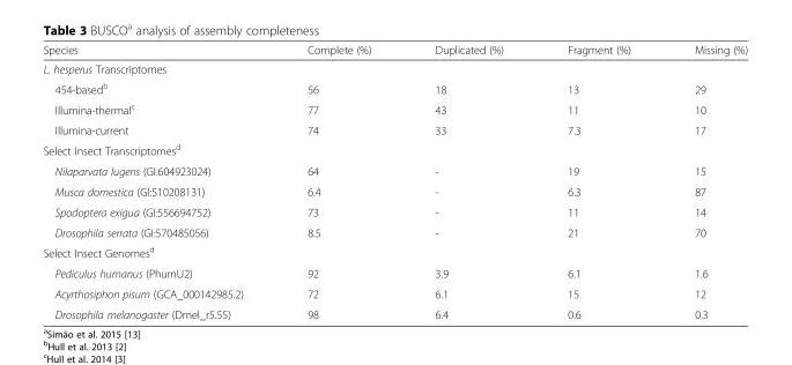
<table><thead><tr><td>Species</td><td>Complete (%)</td><td>Duplicated (%)</td><td>Fragment (%)</td><td>Missing (%)</td></tr></thead><tbody><tr><td colspan="5">L. hesperus Transcriptomes</td></tr><tr><td>454-based<sup>b</sup></td><td>56</td><td>18</td><td>13</td><td>29</td></tr><tr><td>Illumina-thermal<sup>c</sup></td><td>77</td><td>43</td><td>11</td><td>10</td></tr><tr><td>Illumina-current</td><td>74</td><td>33</td><td>7.3</td><td>17</td></tr><tr><td colspan="5">Select Insect Transcriptomes<sup>d</sup></td></tr><tr><td>Nilaparvata lugens (GI:604923024)</td><td>64</td><td>-</td><td>19</td><td>15</td></tr><tr><td>Musca domestica (GI:510208131)</td><td>6.4</td><td>-</td><td>6.3</td><td>87</td></tr><tr><td>Spodoptera exigua (GI:556694752)</td><td>73</td><td>-</td><td>11</td><td>14</td></tr><tr><td>Drosophila serrata (GI:570485056)</td><td>8.5</td><td>-</td><td>21</td><td>70</td></tr><tr><td colspan="5">Select Insect Genomes<sup>d</sup></td></tr><tr><td>Pediculus humanus (PhumU2)</td><td>92</td><td>3.9</td><td>6.1</td><td>1.6</td></tr><tr><td>Acyrthosiphon pisum (GCA_000142985.2)</td><td>72</td><td>6.1</td><td>15</td><td>12</td></tr><tr><td>Drosophila melanogaster (Dmel_r5.55)</td><td>98</td><td>6.4</td><td>0.6</td><td>0.3</td></tr></tbody></table>